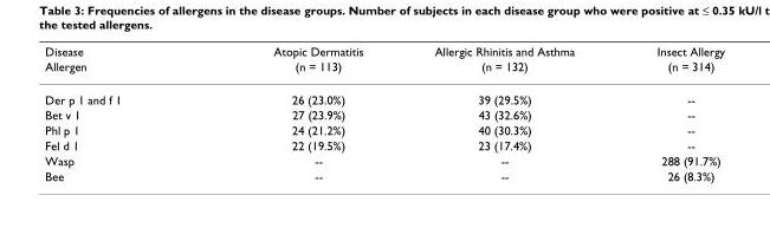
<table><thead><tr><td rowspan="2">Disease Allergen</td><td rowspan="2">Atopic Dermatitis (n = 113)</td><td rowspan="2">Allergic Rhinitis and Asthma (n = 132)</td><td rowspan="2">Insect Allergy (n = 314)</td></tr><tr></tr></thead><tbody><tr><td>Der p 1 and f 1</td><td>26 (23.0%)</td><td>39 (29.5%)</td><td>--</td></tr><tr><td>Bet v 1</td><td>27 (23.9%)</td><td>43 (32.6%)</td><td>--</td></tr><tr><td>Phl p 1</td><td>24 (21.2%)</td><td>40 (30.3%)</td><td>--</td></tr><tr><td>Fel d 1</td><td>22 (19.5%)</td><td>23 (17.4%)</td><td>--</td></tr><tr><td>Wasp</td><td>--</td><td>--</td><td>288 (91.7%)</td></tr><tr><td>Bee</td><td>--</td><td>--</td><td>26 (8.3%)</td></tr></tbody></table>